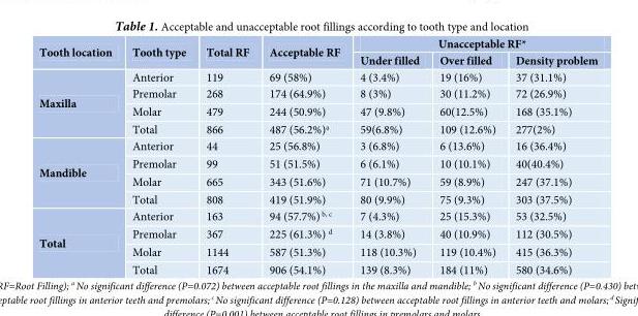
<table><thead><tr><td rowspan="2">Tooth location</td><td rowspan="2">Tooth type</td><td rowspan="2">Total RF</td><td rowspan="2">Acceptable RF</td><td colspan="3">Unacceptable RF*</td></tr><tr><td>Under filled</td><td>Over filled</td><td>Density problem</td></tr></thead><tbody><tr><td rowspan="4">Maxilla</td><td>Anterior</td><td>119</td><td>69 (58%)</td><td>4 (3.4%)</td><td>19 (16%)</td><td>37 (31.1%)</td></tr><tr><td>Premolar</td><td>268</td><td>174 (64.9%)</td><td>8 (3%)</td><td>30 (11.2%)</td><td>72 (26.9%)</td></tr><tr><td>Molar</td><td>479</td><td>244 (50.9%)</td><td>47 (9.8%)</td><td>60(12.5%)</td><td>168 (35.1%)</td></tr><tr><td>Total</td><td>866</td><td>487 (56.2%)<sup>a</sup></td><td>59(6.8%)</td><td>109 (12.6%)</td><td>277(2%)</td></tr><tr><td rowspan="4">Mandible</td><td>Anterior</td><td>44</td><td>25 (56.8%)</td><td>3 (6.8%)</td><td>6 (13.6%)</td><td>16 (36.4%)</td></tr><tr><td>Premolar</td><td>99</td><td>51 (51.5%)</td><td>6 (6.1%)</td><td>10 (10.1%)</td><td>40(40.4%)</td></tr><tr><td>Molar</td><td>665</td><td>343 (51.6%)</td><td>71 (10.7%)</td><td>59 (8.9%)</td><td>247 (37.1%)</td></tr><tr><td>Total</td><td>808</td><td>419 (51.9%)</td><td>80 (9.9%)</td><td>75 (9.3%)</td><td>303 (37.5%)</td></tr><tr><td rowspan="4">Total</td><td>Anterior</td><td>163</td><td>94 (57.7%) <sup>b, c</sup></td><td>7 (4.3%)</td><td>25 (15.3%)</td><td>53 (32.5%)</td></tr><tr><td>Premolar</td><td>367</td><td>225 (61.3%) <sup>d</sup></td><td>14 (3.8%)</td><td>40 (10.9%)</td><td>112 (30.5%)</td></tr><tr><td>Molar</td><td>1144</td><td>587 (51.3%)</td><td>118 (10.3%)</td><td>119 (10.4%)</td><td>415 (36.3%)</td></tr><tr><td>Total</td><td>1674</td><td>906 (54.1%)</td><td>139 (8.3%)</td><td>184 (11%)</td><td>580 (34.6%)</td></tr></tbody></table>